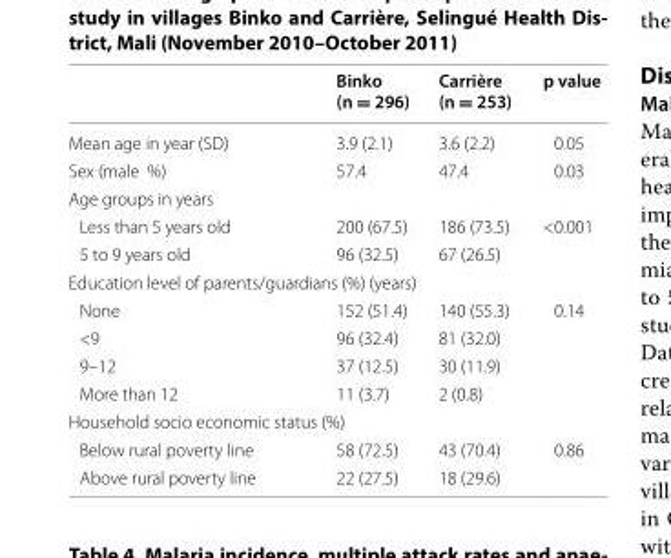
<table><thead><tr><td></td><td>Binko (n = 296)</td><td>Carrière (n = 253)</td><td>p value</td></tr></thead><tbody><tr><td>Mean age in year (SD)</td><td>3.9 (2.1)</td><td>3.6 (2.2)</td><td>0.05</td></tr><tr><td>Sex (male %)</td><td>57.4</td><td>47.4</td><td>0.03</td></tr><tr><td colspan="4">Age groups in years</td></tr><tr><td>Less than 5 years old</td><td>200 (67.5)</td><td>186 (73.5)</td><td rowspan="2">&lt;0.001</td></tr><tr><td>5 to 9 years old</td><td>96 (32.5)</td><td>67 (26.5)</td></tr><tr><td colspan="4">Education level of parents/guardians (%) (years)</td></tr><tr><td>None</td><td>152 (51.4)</td><td>140 (55.3)</td><td rowspan="4">0.14</td></tr><tr><td>&lt;9</td><td>96 (32.4)</td><td>81 (32.0)</td></tr><tr><td>9–12</td><td>37 (12.5)</td><td>30 (11.9)</td></tr><tr><td>More than 12</td><td>11 (3.7)</td><td>2 (0.8)</td></tr><tr><td colspan="4">Household socio economic status (%)</td></tr><tr><td>Below rural poverty line</td><td>58 (72.5)</td><td>43 (70.4)</td><td rowspan="2">0.86</td></tr><tr><td>Above rural poverty line</td><td>22 (27.5)</td><td>18 (29.6)</td></tr></tbody></table>